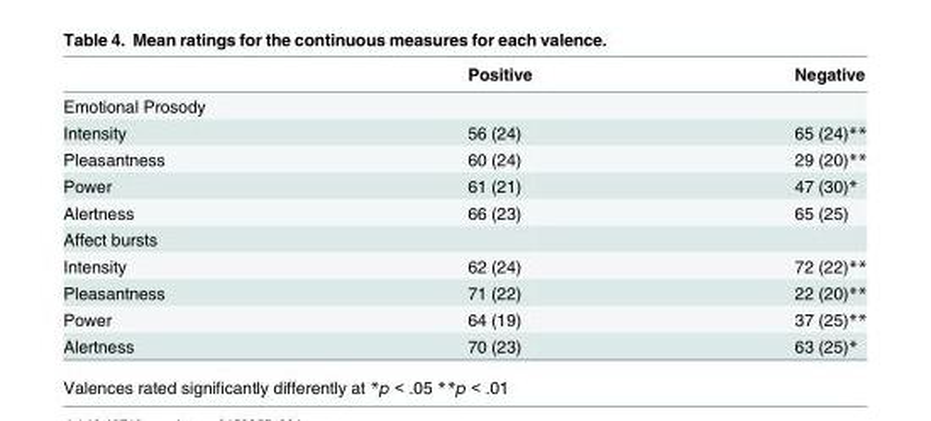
<table><thead><tr><td></td><td>Positive</td><td>Negative</td></tr></thead><tbody><tr><td colspan="3">Emotional Prosody</td></tr><tr><td>Intensity</td><td>56 (24)</td><td>65 (24)**</td></tr><tr><td>Pleasantness</td><td>60 (24)</td><td>29 (20)**</td></tr><tr><td>Power</td><td>61 (21)</td><td>47 (30)*</td></tr><tr><td>Alertness</td><td>66 (23)</td><td>65 (25)</td></tr><tr><td colspan="3">Affect bursts</td></tr><tr><td>Intensity</td><td>62 (24)</td><td>72 (22)**</td></tr><tr><td>Pleasantness</td><td>71 (22)</td><td>22 (20)**</td></tr><tr><td>Power</td><td>64 (19)</td><td>37 (25)**</td></tr><tr><td>Alertness</td><td>70 (23)</td><td>63 (25)*</td></tr></tbody></table>